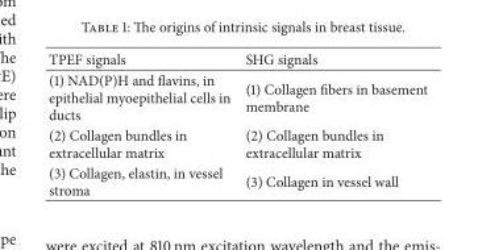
<table><thead><tr><td>TPEF signals</td><td>SHG signals</td></tr></thead><tbody><tr><td>(1) NAD(P)H and flavins, in epithelial myoepithelial cells in ducts</td><td>(1) Collagen fibers in basement membrane</td></tr><tr><td>(2) Collagen bundles in extracellular matrix</td><td>(2) Collagen bundles in extracellular matrix</td></tr><tr><td>(3) Collagen, elastin, in vessel stroma</td><td>(3) Collagen in vessel wall</td></tr></tbody></table>